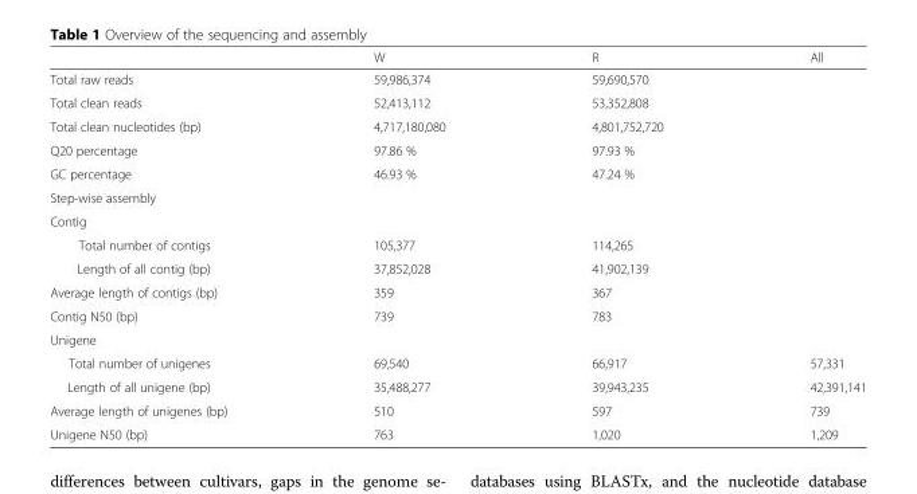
<table><thead><tr><td></td><td>W</td><td>R</td><td>All</td></tr></thead><tbody><tr><td>Total raw reads</td><td>59,986,374</td><td>59,690,570</td><td></td></tr><tr><td>Total clean reads</td><td>52,413,112</td><td>53,352,808</td><td></td></tr><tr><td>Total clean nucleotides (bp)</td><td>4,717,180,080</td><td>4,801,752,720</td><td></td></tr><tr><td>Q20 percentage</td><td>97.86 %</td><td>97.93 %</td><td></td></tr><tr><td>GC percentage</td><td>46.93 %</td><td>47.24 %</td><td></td></tr><tr><td colspan="4">Step-wise assembly</td></tr><tr><td colspan="4">Contig</td></tr><tr><td>Total number of contigs</td><td>105,377</td><td>114,265</td><td></td></tr><tr><td>Length of all contig (bp)</td><td>37,852,028</td><td>41,902,139</td><td></td></tr><tr><td>Average length of contigs (bp)</td><td>359</td><td>367</td><td></td></tr><tr><td>Contig N50 (bp)</td><td>739</td><td>783</td><td></td></tr><tr><td colspan="4">Unigene</td></tr><tr><td>Total number of unigenes</td><td>69,540</td><td>66,917</td><td>57,331</td></tr><tr><td>Length of all unigene (bp)</td><td>35,488,277</td><td>39,943,235</td><td>42,391,141</td></tr><tr><td>Average length of unigenes (bp)</td><td>510</td><td>597</td><td>739</td></tr><tr><td>Unigene N50 (bp)</td><td>763</td><td>1,020</td><td>1,209</td></tr></tbody></table>